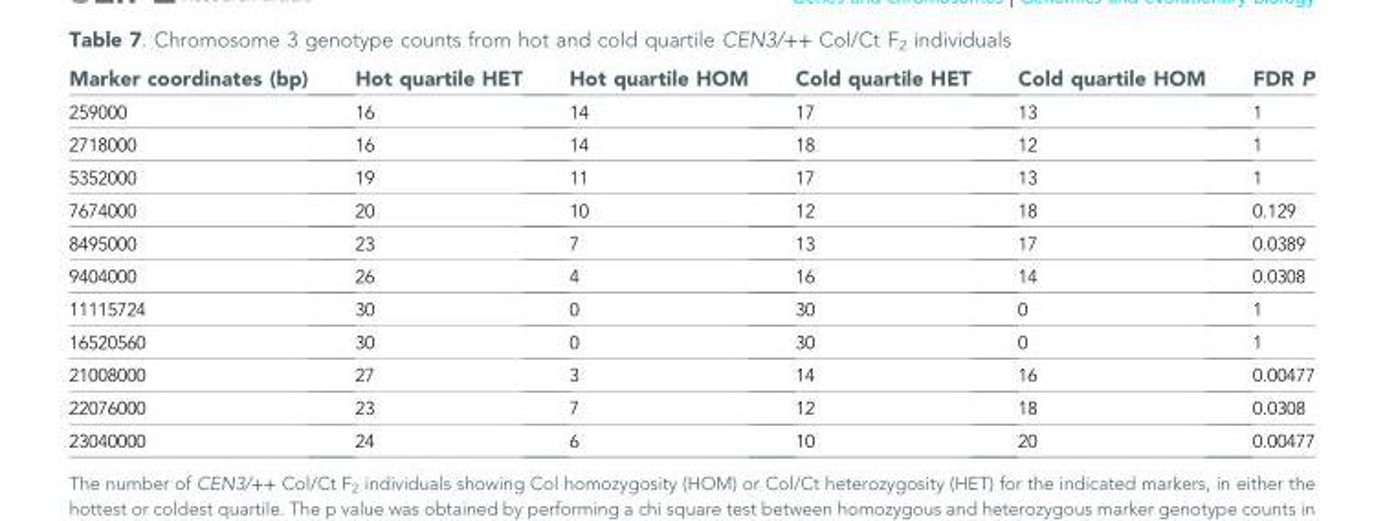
<table><thead><tr><td>Marker coordinates (bp)</td><td>Hot quartile HET</td><td>Hot quartile HOM</td><td>Cold quartile HET</td><td>Cold quartile HOM</td><td>FDR P</td></tr></thead><tbody><tr><td>259000</td><td>16</td><td>14</td><td>17</td><td>13</td><td>1</td></tr><tr><td>2718000</td><td>16</td><td>14</td><td>18</td><td>12</td><td>1</td></tr><tr><td>5352000</td><td>19</td><td>11</td><td>17</td><td>13</td><td>1</td></tr><tr><td>7674000</td><td>20</td><td>10</td><td>12</td><td>18</td><td>0.129</td></tr><tr><td>8495000</td><td>23</td><td>7</td><td>13</td><td>17</td><td>0.0389</td></tr><tr><td>9404000</td><td>26</td><td>4</td><td>16</td><td>14</td><td>0.0308</td></tr><tr><td>11115724</td><td>30</td><td>0</td><td>30</td><td>0</td><td>1</td></tr><tr><td>16520560</td><td>30</td><td>0</td><td>30</td><td>0</td><td>1</td></tr><tr><td>21008000</td><td>27</td><td>3</td><td>14</td><td>16</td><td>0.00477</td></tr><tr><td>22076000</td><td>23</td><td>7</td><td>12</td><td>18</td><td>0.0308</td></tr><tr><td>23040000</td><td>24</td><td>6</td><td>10</td><td>20</td><td>0.00477</td></tr></tbody></table>